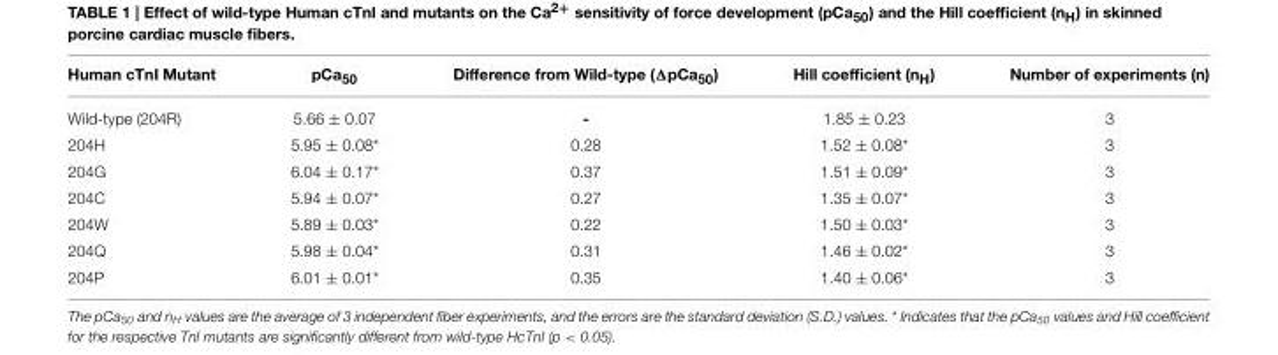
<table><thead><tr><td>Human cTnI Mutant</td><td>pCa<sub>50</sub></td><td>Difference from Wild-type (ΔpCa<sub>50</sub>)</td><td>Hill coefficient (n<sub>H</sub>)</td><td>Number of experiments (n)</td></tr></thead><tbody><tr><td>Wild-type (204R)</td><td>5.66 ± 0.07</td><td>-</td><td>1.85 ± 0.23</td><td>3</td></tr><tr><td>204H</td><td>5.95 ± 0.08*</td><td>0.28</td><td>1.52 ± 0.08*</td><td>3</td></tr><tr><td>204G</td><td>6.04 ± 0.17*</td><td>0.37</td><td>1.51 ± 0.09*</td><td>3</td></tr><tr><td>204C</td><td>5.94 ± 0.07*</td><td>0.27</td><td>1.35 ± 0.07*</td><td>3</td></tr><tr><td>204W</td><td>5.89 ± 0.03*</td><td>0.22</td><td>1.50 ± 0.03*</td><td>3</td></tr><tr><td>204Q</td><td>5.98 ± 0.04*</td><td>0.31</td><td>1.46 ± 0.02*</td><td>3</td></tr><tr><td>204P</td><td>6.01 ± 0.01*</td><td>0.35</td><td>1.40 ± 0.06*</td><td>3</td></tr></tbody></table>